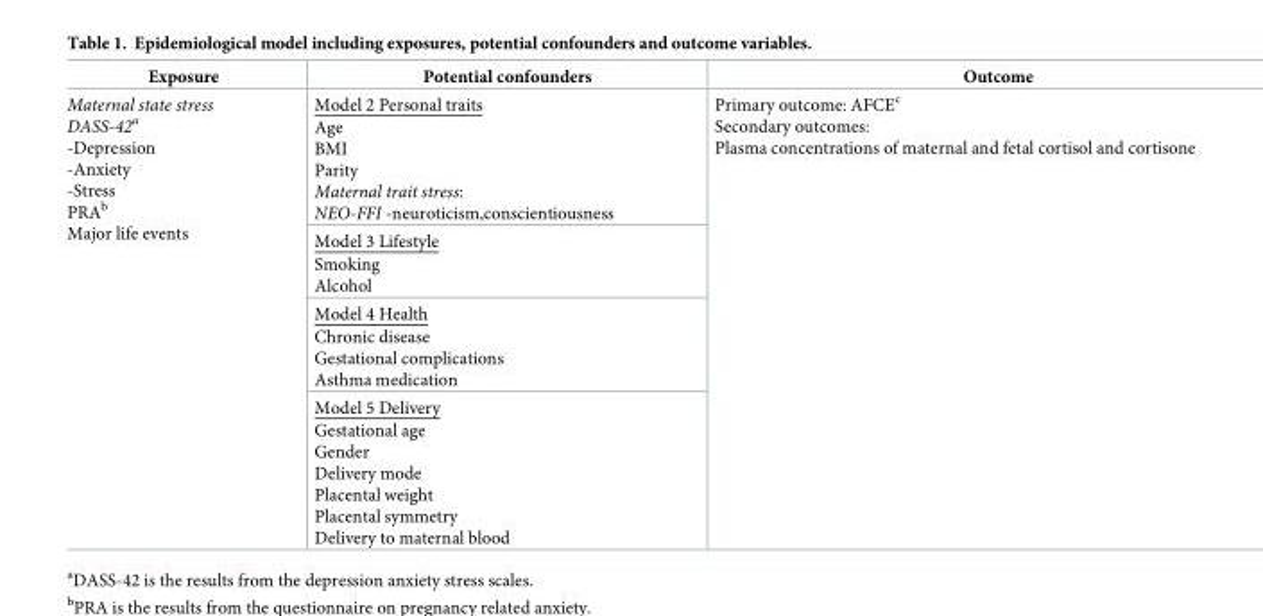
<table><thead><tr><td>Exposure</td><td>Potential confounders</td><td>Outcome</td></tr></thead><tbody><tr><td rowspan="4">Maternal state stress DASS-42<sup>a</sup> -Depression -Anxiety -Stress PRA<sup>b</sup> Major life events</td><td>Model 2 Personal traits Age BMI Parity Maternal trait stress: NEO-FFI -neuroticism,conscientiousness</td><td rowspan="4">Primary outcome: AFCE<sup>c</sup> Secondary outcomes: Plasma concentrations of maternal and fetal cortisol and cortisone</td></tr><tr><td>Model 3 Lifestyle Smoking Alcohol</td></tr><tr><td>Model 4 Health Chronic disease Gestational complications Asthma medication</td></tr><tr><td>Model 5 Delivery Gestational age Gender Delivery mode Placental weight Placental symmetry Delivery to maternal blood</td></tr></tbody></table>